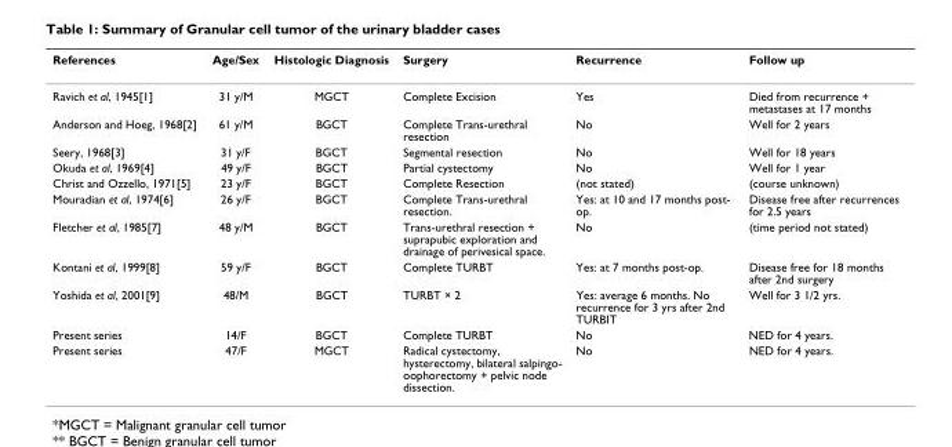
<table><thead><tr><td>References</td><td>Age/Sex</td><td>Histologic Diagnosis</td><td>Surgery</td><td>Recurrence</td><td>Follow up</td></tr></thead><tbody><tr><td>Ravich et al, 1945[1]</td><td>31 y/M</td><td>MGCT</td><td>Complete Excision</td><td>Yes</td><td>Died from recurrence + metastases at 17 months</td></tr><tr><td>Anderson and Hoeg, 1968[2]</td><td>61 y/M</td><td>BGCT</td><td>Complete Trans-urethral resection</td><td>No</td><td>Well for 2 years</td></tr><tr><td>Seery, 1968[3]</td><td>31 y/F</td><td>BGCT</td><td>Segmental resection</td><td>No</td><td>Well for 18 years</td></tr><tr><td>Okuda et al, 1969[4]</td><td>49 y/F</td><td>BGCT</td><td>Partial cystectomy</td><td>No</td><td>Well for 1 year</td></tr><tr><td>Christ and Ozzello, 1971[5]</td><td>23 y/F</td><td>BGCT</td><td>Complete Resection</td><td>(not stated)</td><td>(course unknown)</td></tr><tr><td>Mouradian et al, 1974[6]</td><td>26 y/F</td><td>BGCT</td><td>Complete Trans-urethral resection.</td><td>Yes: at 10 and 17 months post- op.</td><td>Disease free after recurrences for 2.5 years</td></tr><tr><td>Fletcher et al, 1985[7]</td><td>48 y/M</td><td>BGCT</td><td>Trans-urethral resection + suprapubic exploration and drainage of perivesical space.</td><td>No</td><td>(time period not stated)</td></tr><tr><td>Kontani et al, 1999[8]</td><td>59 y/F</td><td>BGCT</td><td>Complete TURBT</td><td>Yes: at 7 months post-op.</td><td>Disease free for 18 months after 2nd surgery</td></tr><tr><td>Yoshida et al, 2001[9]</td><td>48/M</td><td>BGCT</td><td>TURBT × 2</td><td>Yes: average 6 months. No recurrence for 3 yrs after 2nd TURBIT</td><td>Well for 3 1/2 yrs.</td></tr><tr><td>Present series</td><td>14/F</td><td>BGCT</td><td>Complete TURBT</td><td>No</td><td>NED for 4 years.</td></tr><tr><td>Present series</td><td>47/F</td><td>MGCT</td><td>Radical cystectomy, hysterectomy, bilateral salpingo- oophorectomy + pelvic node dissection.</td><td>No</td><td>NED for 4 years.</td></tr></tbody></table>